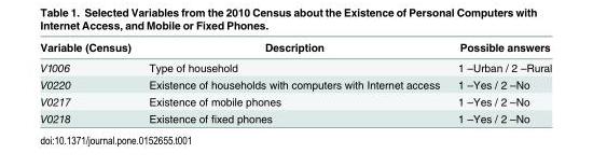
<table><thead><tr><td>Variable (Census)</td><td>Description</td><td>Possible answers</td></tr></thead><tbody><tr><td>V1006</td><td>Type of household</td><td>1 –Urban / 2 –Rural</td></tr><tr><td>V0220</td><td>Existence of households with computers with Internet access</td><td>1 –Yes / 2 –No</td></tr><tr><td>V0217</td><td>Existence of mobile phones</td><td>1 –Yes / 2 –No</td></tr><tr><td>V0218</td><td>Existence of fixed phones</td><td>1 –Yes / 2 –No</td></tr></tbody></table>